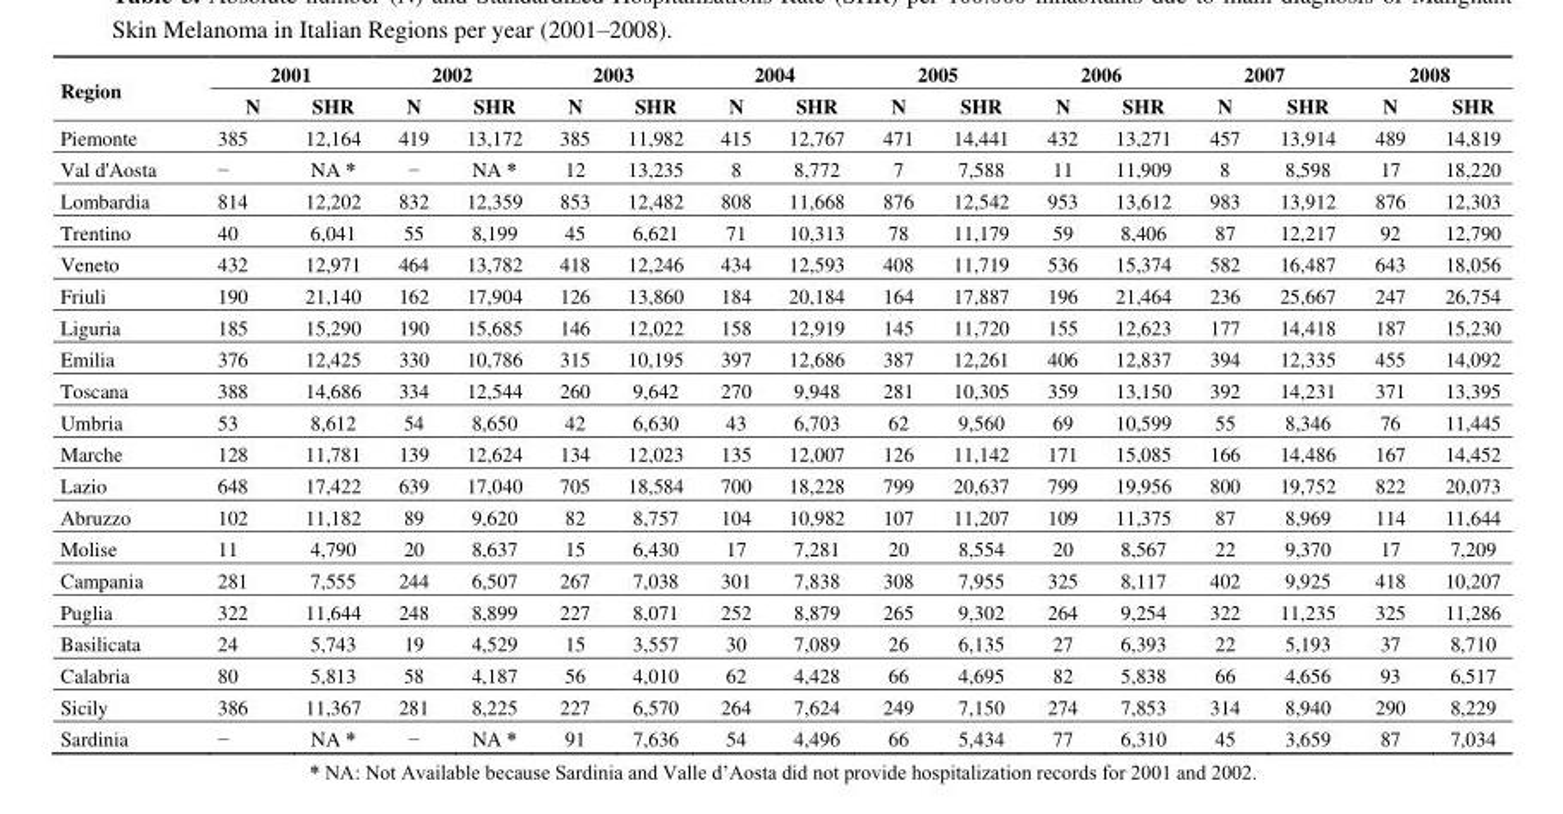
<table><thead><tr><td rowspan="2">Region</td><td colspan="2">2001</td><td colspan="2">2002</td><td colspan="2">2003</td><td colspan="2">2004</td><td colspan="2">2005</td><td colspan="2">2006</td><td colspan="2">2007</td><td colspan="2">2008</td></tr><tr><td>N</td><td>SHR</td><td>N</td><td>SHR</td><td>N</td><td>SHR</td><td>N</td><td>SHR</td><td>N</td><td>SHR</td><td>N</td><td>SHR</td><td>N</td><td>SHR</td><td>N</td><td>SHR</td></tr></thead><tbody><tr><td>Piemonte</td><td>385</td><td>12,164</td><td>419</td><td>13,172</td><td>385</td><td>11,982</td><td>415</td><td>12,767</td><td>471</td><td>14,441</td><td>432</td><td>13,271</td><td>457</td><td>13,914</td><td>489</td><td>14,819</td></tr><tr><td>Val d&#x27;Aosta</td><td>−</td><td>NA *</td><td>−</td><td>NA *</td><td>12</td><td>13,235</td><td>8</td><td>8,772</td><td>7</td><td>7,588</td><td>11</td><td>11,909</td><td>8</td><td>8,598</td><td>17</td><td>18,220</td></tr><tr><td>Lombardia</td><td>814</td><td>12,202</td><td>832</td><td>12,359</td><td>853</td><td>12,482</td><td>808</td><td>11,668</td><td>876</td><td>12,542</td><td>953</td><td>13,612</td><td>983</td><td>13,912</td><td>876</td><td>12,303</td></tr><tr><td>Trentino</td><td>40</td><td>6,041</td><td>55</td><td>8,199</td><td>45</td><td>6,621</td><td>71</td><td>10,313</td><td>78</td><td>11,179</td><td>59</td><td>8,406</td><td>87</td><td>12,217</td><td>92</td><td>12,790</td></tr><tr><td>Veneto</td><td>432</td><td>12,971</td><td>464</td><td>13,782</td><td>418</td><td>12,246</td><td>434</td><td>12,593</td><td>408</td><td>11,719</td><td>536</td><td>15,374</td><td>582</td><td>16,487</td><td>643</td><td>18,056</td></tr><tr><td>Friuli</td><td>190</td><td>21,140</td><td>162</td><td>17,904</td><td>126</td><td>13,860</td><td>184</td><td>20,184</td><td>164</td><td>17,887</td><td>196</td><td>21,464</td><td>236</td><td>25,667</td><td>247</td><td>26,754</td></tr><tr><td>Liguria</td><td>185</td><td>15,290</td><td>190</td><td>15,685</td><td>146</td><td>12,022</td><td>158</td><td>12,919</td><td>145</td><td>11,720</td><td>155</td><td>12,623</td><td>177</td><td>14,418</td><td>187</td><td>15,230</td></tr><tr><td>Emilia</td><td>376</td><td>12,425</td><td>330</td><td>10,786</td><td>315</td><td>10,195</td><td>397</td><td>12,686</td><td>387</td><td>12,261</td><td>406</td><td>12,837</td><td>394</td><td>12,335</td><td>455</td><td>14,092</td></tr><tr><td>Toscana</td><td>388</td><td>14,686</td><td>334</td><td>12,544</td><td>260</td><td>9,642</td><td>270</td><td>9,948</td><td>281</td><td>10,305</td><td>359</td><td>13,150</td><td>392</td><td>14,231</td><td>371</td><td>13,395</td></tr><tr><td>Umbria</td><td>53</td><td>8,612</td><td>54</td><td>8,650</td><td>42</td><td>6,630</td><td>43</td><td>6,703</td><td>62</td><td>9,560</td><td>69</td><td>10,599</td><td>55</td><td>8,346</td><td>76</td><td>11,445</td></tr><tr><td>Marche</td><td>128</td><td>11,781</td><td>139</td><td>12,624</td><td>134</td><td>12,023</td><td>135</td><td>12,007</td><td>126</td><td>11,142</td><td>171</td><td>15,085</td><td>166</td><td>14,486</td><td>167</td><td>14,452</td></tr><tr><td>Lazio</td><td>648</td><td>17,422</td><td>639</td><td>17,040</td><td>705</td><td>18,584</td><td>700</td><td>18,228</td><td>799</td><td>20,637</td><td>799</td><td>19,956</td><td>800</td><td>19,752</td><td>822</td><td>20,073</td></tr><tr><td>Abruzzo</td><td>102</td><td>11,182</td><td>89</td><td>9,620</td><td>82</td><td>8,757</td><td>104</td><td>10,982</td><td>107</td><td>11,207</td><td>109</td><td>11,375</td><td>87</td><td>8,969</td><td>114</td><td>11,644</td></tr><tr><td>Molise</td><td>11</td><td>4,790</td><td>20</td><td>8,637</td><td>15</td><td>6,430</td><td>17</td><td>7,281</td><td>20</td><td>8,554</td><td>20</td><td>8,567</td><td>22</td><td>9,370</td><td>17</td><td>7,209</td></tr><tr><td>Campania</td><td>281</td><td>7,555</td><td>244</td><td>6,507</td><td>267</td><td>7,038</td><td>301</td><td>7,838</td><td>308</td><td>7,955</td><td>325</td><td>8,117</td><td>402</td><td>9,925</td><td>418</td><td>10,207</td></tr><tr><td>Puglia</td><td>322</td><td>11,644</td><td>248</td><td>8,899</td><td>227</td><td>8,071</td><td>252</td><td>8,879</td><td>265</td><td>9,302</td><td>264</td><td>9,254</td><td>322</td><td>11,235</td><td>325</td><td>11,286</td></tr><tr><td>Basilicata</td><td>24</td><td>5,743</td><td>19</td><td>4,529</td><td>15</td><td>3,557</td><td>30</td><td>7,089</td><td>26</td><td>6,135</td><td>27</td><td>6,393</td><td>22</td><td>5,193</td><td>37</td><td>8,710</td></tr><tr><td>Calabria</td><td>80</td><td>5,813</td><td>58</td><td>4,187</td><td>56</td><td>4,010</td><td>62</td><td>4,428</td><td>66</td><td>4,695</td><td>82</td><td>5,838</td><td>66</td><td>4,656</td><td>93</td><td>6,517</td></tr><tr><td>Sicily</td><td>386</td><td>11,367</td><td>281</td><td>8,225</td><td>227</td><td>6,570</td><td>264</td><td>7,624</td><td>249</td><td>7,150</td><td>274</td><td>7,853</td><td>314</td><td>8,940</td><td>290</td><td>8,229</td></tr><tr><td>Sardinia</td><td>−</td><td>NA *</td><td>−</td><td>NA *</td><td>91</td><td>7,636</td><td>54</td><td>4,496</td><td>66</td><td>5,434</td><td>77</td><td>6,310</td><td>45</td><td>3,659</td><td>87</td><td>7,034</td></tr></tbody></table>